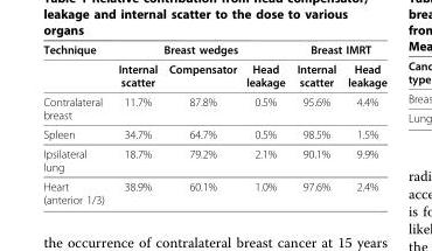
<table><thead><tr><td rowspan="2">Technique</td><td colspan="3">Breast wedges</td><td colspan="2">Breast IMRT</td></tr><tr><td>Internal scatter</td><td>Compensator</td><td>Head leakage</td><td>Internal scatter</td><td>Head leakage</td></tr></thead><tbody><tr><td>Contralateral breast</td><td>11.7%</td><td>87.8%</td><td>0.5%</td><td>95.6%</td><td>4.4%</td></tr><tr><td>Spleen</td><td>34.7%</td><td>64.7%</td><td>0.5%</td><td>98.5%</td><td>1.5%</td></tr><tr><td>Ipsilateral lung</td><td>18.7%</td><td>79.2%</td><td>2.1%</td><td>90.1%</td><td>9.9%</td></tr><tr><td>Heart (anterior 1/3)</td><td>38.9%</td><td>60.1%</td><td>1.0%</td><td>97.6%</td><td>2.4%</td></tr></tbody></table>